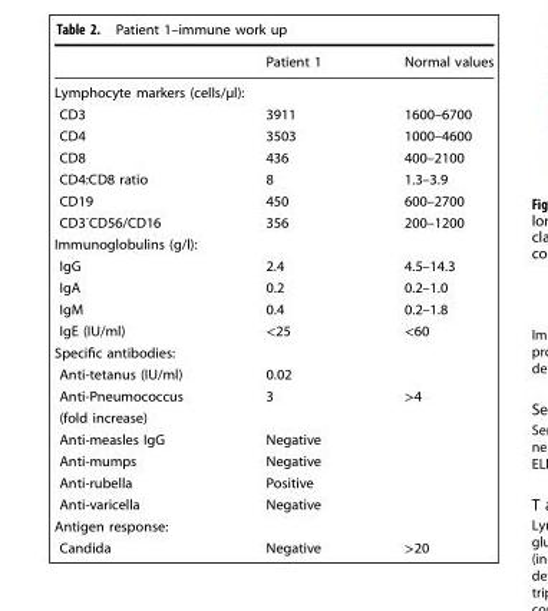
<table><thead><tr><td></td><td>Patient 1</td><td>Normal values</td></tr></thead><tbody><tr><td colspan="3">Lymphocyte markers (cells/µl):</td></tr><tr><td>CD3</td><td>3911</td><td>1600–6700</td></tr><tr><td>CD4</td><td>3503</td><td>1000–4600</td></tr><tr><td>CD8</td><td>436</td><td>400–2100</td></tr><tr><td>CD4:CD8 ratio</td><td>8</td><td>1.3–3.9</td></tr><tr><td>CD19</td><td>450</td><td>600–2700</td></tr><tr><td>CD3<sup>-</sup>CD56/CD16</td><td>356</td><td>200–1200</td></tr><tr><td colspan="3">Immunoglobulins (g/l):</td></tr><tr><td>IgG</td><td>2.4</td><td>4.5–14.3</td></tr><tr><td>IgA</td><td>0.2</td><td>0.2–1.0</td></tr><tr><td>IgM</td><td>0.4</td><td>0.2–1.8</td></tr><tr><td>IgE (IU/ml)</td><td>&lt;25</td><td>&lt;60</td></tr><tr><td colspan="3">Specific antibodies:</td></tr><tr><td>Anti-tetanus (IU/ml)</td><td>0.02</td><td></td></tr><tr><td>Anti-Pneumococcus</td><td>3</td><td>&gt;4</td></tr><tr><td colspan="3">(fold increase)</td></tr><tr><td>Anti-measles IgG</td><td>Negative</td><td></td></tr><tr><td>Anti-mumps</td><td>Negative</td><td></td></tr><tr><td>Anti-rubella</td><td>Positive</td><td></td></tr><tr><td>Anti-varicella</td><td>Negative</td><td></td></tr><tr><td colspan="3">Antigen response:</td></tr><tr><td>Candida</td><td>Negative</td><td>&gt;20</td></tr></tbody></table>